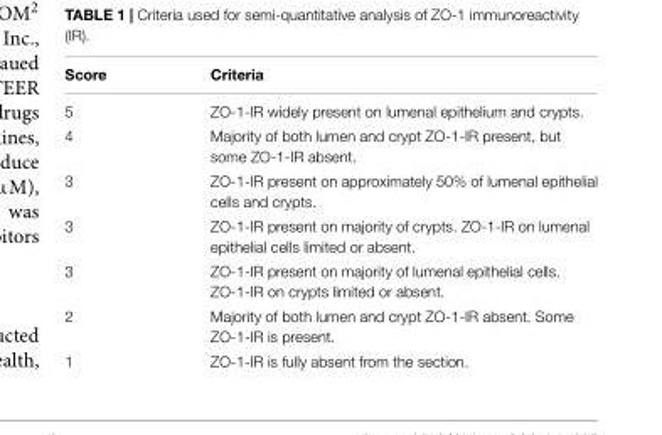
<table><thead><tr><td>Score</td><td>Criteria</td></tr></thead><tbody><tr><td>5</td><td>ZO-1-IR widely present on lumenal epithelium and crypts.</td></tr><tr><td>4</td><td>Majority of both lumen and crypt ZO-1-IR present, but some ZO-1-IR absent.</td></tr><tr><td>3</td><td>ZO-1-IR present on approximately 50% of lumenal epithelial cells and crypts.</td></tr><tr><td>3</td><td>ZO-1-IR present on majority of crypts. ZO-1-IR on lumenal epithelial cells limited or absent.</td></tr><tr><td>3</td><td>ZO-1-IR present on majority of lumenal epithelial cells. ZO-1-IR on crypts limited or absent.</td></tr><tr><td>2</td><td>Majority of both lumen and crypt ZO-1-IR absent. Some ZO-1-IR is present.</td></tr><tr><td>1</td><td>ZO-1-IR is fully absent from the section.</td></tr></tbody></table>